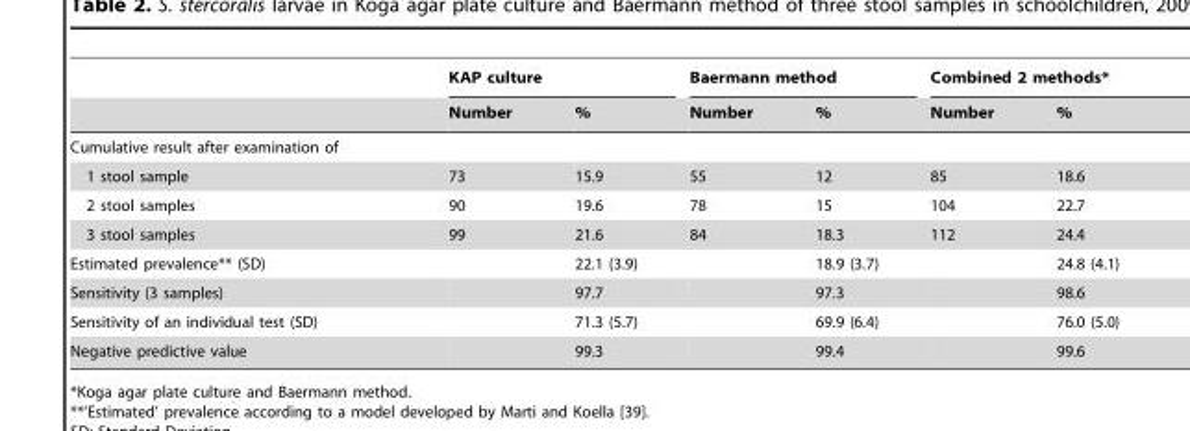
<table><thead><tr><td rowspan="2"></td><td colspan="2">KAP culture</td><td colspan="2">Baermann method</td><td colspan="2">Combined 2 methods*</td></tr><tr><td>Number</td><td>%</td><td>Number</td><td>%</td><td>Number</td><td>%</td></tr></thead><tbody><tr><td colspan="7">Cumulative result after examination of</td></tr><tr><td>1 stool sample</td><td>73</td><td>15.9</td><td>55</td><td>12</td><td>85</td><td>18.6</td></tr><tr><td>2 stool samples</td><td>90</td><td>19.6</td><td>78</td><td>15</td><td>104</td><td>22.7</td></tr><tr><td>3 stool samples</td><td>99</td><td>21.6</td><td>84</td><td>18.3</td><td>112</td><td>24.4</td></tr><tr><td>Estimated prevalence** (SD)</td><td></td><td>22.1 (3.9)</td><td></td><td>18.9 (3.7)</td><td></td><td>24.8 (4.1)</td></tr><tr><td>Sensitivity (3 samples)</td><td></td><td>97.7</td><td></td><td>97.3</td><td></td><td>98.6</td></tr><tr><td>Sensitivity of an individual test (SD)</td><td></td><td>71.3 (5.7)</td><td></td><td>69.9 (6.4)</td><td></td><td>76.0 (5.0)</td></tr><tr><td>Negative predictive value</td><td></td><td>99.3</td><td></td><td>99.4</td><td></td><td>99.6</td></tr></tbody></table>